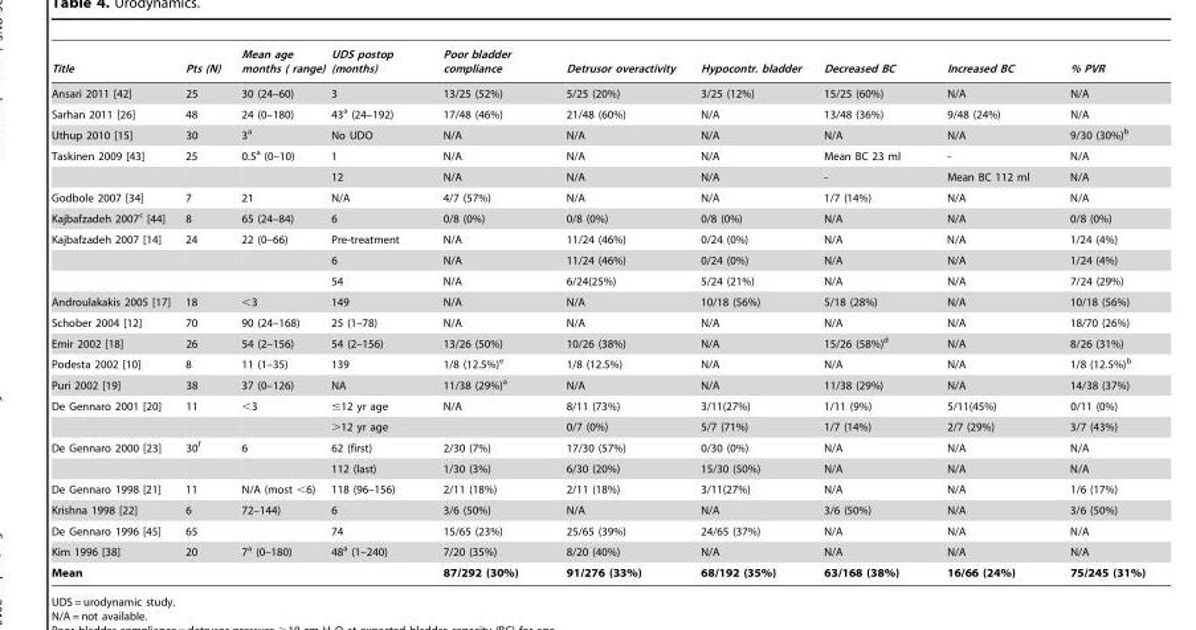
<table><thead><tr><td>Title</td><td>Pts (N)</td><td>Mean age months ( range)</td><td>UDS postop (months)</td><td>Poor bladder compliance</td><td>Detrusor overactivity</td><td>Hypocontr. bladder</td><td>Decreased BC</td><td>Increased BC</td><td>% PVR</td></tr></thead><tbody><tr><td>Ansari 2011 [42]</td><td>25</td><td>30 (24–60)</td><td>3</td><td>13/25 (52%)</td><td>5/25 (20%)</td><td>3/25 (12%)</td><td>15/25 (60%)</td><td>N/A</td><td>N/A</td></tr><tr><td>Sarhan 2011 [26]</td><td>48</td><td>24 (0–180)</td><td>43<sup>a</sup> (24–192)</td><td>17/48 (46%)</td><td>21/48 (60%)</td><td>N/A</td><td>13/48 (36%)</td><td>9/48 (24%)</td><td>N/A</td></tr><tr><td>Uthup 2010 [15]</td><td>30</td><td>3<sup>a</sup></td><td>No UDO</td><td>N/A</td><td>N/A</td><td>N/A</td><td>N/A</td><td>N/A</td><td>9/30 (30%)<sup>b</sup></td></tr><tr><td rowspan="2">Taskinen 2009 [43]</td><td>25</td><td>0.5<sup>a</sup> (0–10)</td><td>1</td><td>N/A</td><td>N/A</td><td>N/A</td><td>Mean BC 23 ml</td><td>-</td><td>N/A</td></tr><tr><td></td><td></td><td>12</td><td>N/A</td><td>N/A</td><td>N/A</td><td>-</td><td>Mean BC 112 ml</td><td>N/A</td></tr><tr><td>Godbole 2007 [34]</td><td>7</td><td>21</td><td>N/A</td><td>4/7 (57%)</td><td>N/A</td><td>N/A</td><td>1/7 (14%)</td><td>N/A</td><td>N/A</td></tr><tr><td>Kajbafzadeh 2007<sup>c</sup> [44]</td><td>8</td><td>65 (24–84)</td><td>6</td><td>0/8 (0%)</td><td>0/8 (0%)</td><td>0/8 (0%)</td><td>N/A</td><td>N/A</td><td>0/8 (0%)</td></tr><tr><td rowspan="3">Kajbafzadeh 2007 [14]</td><td>24</td><td>22 (0–66)</td><td>Pre-treatment</td><td>N/A</td><td>11/24 (46%)</td><td>0/24 (0%)</td><td>N/A</td><td>N/A</td><td>1/24 (4%)</td></tr><tr><td></td><td></td><td>6</td><td>N/A</td><td>11/24 (46%)</td><td>0/24 (0%)</td><td>N/A</td><td>N/A</td><td>1/24 (4%)</td></tr><tr><td></td><td></td><td>54</td><td>N/A</td><td>6/24(25%)</td><td>5/24 (21%)</td><td>N/A</td><td>N/A</td><td>7/24 (29%)</td></tr><tr><td>Androulakakis 2005 [17]</td><td>18</td><td>&lt;3</td><td>149</td><td>N/A</td><td>N/A</td><td>10/18 (56%)</td><td>5/18 (28%)</td><td>N/A</td><td>10/18 (56%)</td></tr><tr><td>Schober 2004 [12]</td><td>70</td><td>90 (24–168)</td><td>25 (1–78)</td><td>N/A</td><td>N/A</td><td>N/A</td><td>N/A</td><td>N/A</td><td>18/70 (26%)</td></tr><tr><td>Emir 2002 [18]</td><td>26</td><td>54 (2–156)</td><td>54 (2–156)</td><td>13/26 (50%)</td><td>10/26 (38%)</td><td>N/A</td><td>15/26 (58%)<sup>d</sup></td><td>N/A</td><td>8/26 (31%)</td></tr><tr><td>Podesta 2002 [10]</td><td>8</td><td>11 (1–35)</td><td>139</td><td>1/8 (12.5%)<sup>e</sup></td><td>1/8 (12.5%)</td><td>N/A</td><td>N/A</td><td>N/A</td><td>1/8 (12.5%)<sup>b</sup></td></tr><tr><td>Puri 2002 [19]</td><td>38</td><td>37 (0–126)</td><td>NA</td><td>11/38 (29%)<sup>a</sup></td><td>N/A</td><td>N/A</td><td>11/38 (29%)</td><td>N/A</td><td>14/38 (37%)</td></tr><tr><td rowspan="2">De Gennaro 2001 [20]</td><td>11</td><td>&lt;3</td><td>≤12 yr age</td><td>N/A</td><td>8/11 (73%)</td><td>3/11(27%)</td><td>1/11 (9%)</td><td>5/11(45%)</td><td>0/11 (0%)</td></tr><tr><td></td><td></td><td>&gt;12 yr age</td><td></td><td>0/7 (0%)</td><td>5/7 (71%)</td><td>1/7 (14%)</td><td>2/7 (29%)</td><td>3/7 (43%)</td></tr><tr><td rowspan="2">De Gennaro 2000 [23]</td><td>30<sup>f</sup></td><td>6</td><td>62 (first)</td><td>2/30 (7%)</td><td>17/30 (57%)</td><td>0/30 (0%)</td><td>N/A</td><td>N/A</td><td>N/A</td></tr><tr><td></td><td></td><td>112 (last)</td><td>1/30 (3%)</td><td>6/30 (20%)</td><td>15/30 (50%)</td><td>N/A</td><td>N/A</td><td>N/A</td></tr><tr><td>De Gennaro 1998 [21]</td><td>11</td><td>N/A (most &lt;6)</td><td>118 (96–156)</td><td>2/11 (18%)</td><td>2/11 (18%)</td><td>3/11(27%)</td><td>N/A</td><td>N/A</td><td>1/6 (17%)</td></tr><tr><td>Krishna 1998 [22]</td><td>6</td><td>72–144)</td><td>6</td><td>3/6 (50%)</td><td>N/A</td><td>N/A</td><td>3/6 (50%)</td><td>N/A</td><td>3/6 (50%)</td></tr><tr><td>De Gennaro 1996 [45]</td><td>65</td><td></td><td>74</td><td>15/65 (23%)</td><td>25/65 (39%)</td><td>24/65 (37%)</td><td>N/A</td><td>N/A</td><td>N/A</td></tr><tr><td>Kim 1996 [38]</td><td>20</td><td>7<sup>a</sup> (0–180)</td><td>48<sup>a</sup> (1–240)</td><td>7/20 (35%)</td><td>8/20 (40%)</td><td>N/A</td><td>N/A</td><td>N/A</td><td>N/A</td></tr><tr><td>Mean</td><td></td><td></td><td></td><td>87/292 (30%)</td><td>91/276 (33%)</td><td>68/192 (35%)</td><td>63/168 (38%)</td><td>16/66 (24%)</td><td>75/245 (31%)</td></tr></tbody></table>